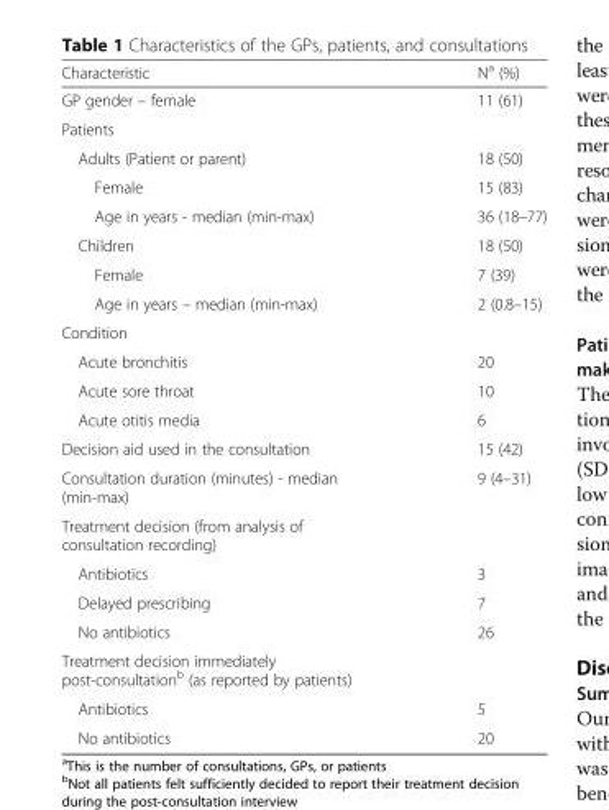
<table><thead><tr><td>Characteristic</td><td>N<sup>a</sup> (%)</td></tr></thead><tbody><tr><td>GP gender – female</td><td>11 (61)</td></tr><tr><td colspan="2">Patients</td></tr><tr><td>Adults (Patient or parent)</td><td>18 (50)</td></tr><tr><td>Female</td><td>15 (83)</td></tr><tr><td>Age in years - median (min-max)</td><td>36 (18–77)</td></tr><tr><td>Children</td><td>18 (50)</td></tr><tr><td>Female</td><td>7 (39)</td></tr><tr><td>Age in years – median (min-max)</td><td>2 (0.8–15)</td></tr><tr><td colspan="2">Condition</td></tr><tr><td>Acute bronchitis</td><td>20</td></tr><tr><td>Acute sore throat</td><td>10</td></tr><tr><td>Acute otitis media</td><td>6</td></tr><tr><td>Decision aid used in the consultation</td><td>15 (42)</td></tr><tr><td>Consultation duration (minutes) - median (min-max)</td><td>9 (4–31)</td></tr><tr><td colspan="2">Treatment decision (from analysis of consultation recording)</td></tr><tr><td>Antibiotics</td><td>3</td></tr><tr><td>Delayed prescribing</td><td>7</td></tr><tr><td>No antibiotics</td><td>26</td></tr><tr><td colspan="2">Treatment decision immediately post-consultation<sup>b</sup> (as reported by patients)</td></tr><tr><td>Antibiotics</td><td>5</td></tr><tr><td>No antibiotics</td><td>20</td></tr></tbody></table>